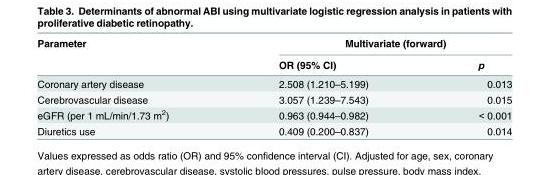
<table><thead><tr><td rowspan="2">Parameter</td><td colspan="2">Multivariate (forward)</td></tr><tr><td>OR (95% CI)</td><td>p</td></tr></thead><tbody><tr><td>Coronary artery disease</td><td>2.508 (1.210–5.199)</td><td>0.013</td></tr><tr><td>Cerebrovascular disease</td><td>3.057 (1.239–7.543)</td><td>0.015</td></tr><tr><td>eGFR (per 1 mL/min/1.73 m<sup>2</sup>)</td><td>0.963 (0.944–0.982)</td><td>&lt; 0.001</td></tr><tr><td>Diuretics use</td><td>0.409 (0.200–0.837)</td><td>0.014</td></tr></tbody></table>